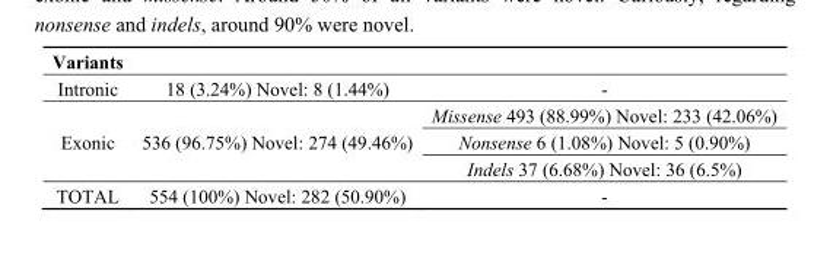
<table><thead><tr><td>Variants</td><td></td><td></td></tr></thead><tbody><tr><td>Intronic</td><td>18 (3.24%) Novel: 8 (1.44%)</td><td>-</td></tr><tr><td rowspan="3">Exonic</td><td rowspan="3">536 (96.75%) Novel: 274 (49.46%)</td><td>Missense 493 (88.99%) Novel: 233 (42.06%)</td></tr><tr><td>Nonsense 6 (1.08%) Novel: 5 (0.90%)</td></tr><tr><td>Indels 37 (6.68%) Novel: 36 (6.5%)</td></tr><tr><td>TOTAL</td><td>554 (100%) Novel: 282 (50.90%)</td><td>-</td></tr></tbody></table>